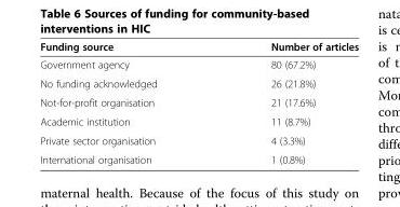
<table><thead><tr><td>Funding source</td><td>Number of articles</td></tr></thead><tbody><tr><td>Government agency</td><td>80 (67.2%)</td></tr><tr><td>No funding acknowledged</td><td>26 (21.8%)</td></tr><tr><td>Not-for-profit organisation</td><td>21 (17.6%)</td></tr><tr><td>Academic institution</td><td>11 (8.7%)</td></tr><tr><td>Private sector organisation</td><td>4 (3.3%)</td></tr><tr><td>International organisation</td><td>1 (0.8%)</td></tr></tbody></table>